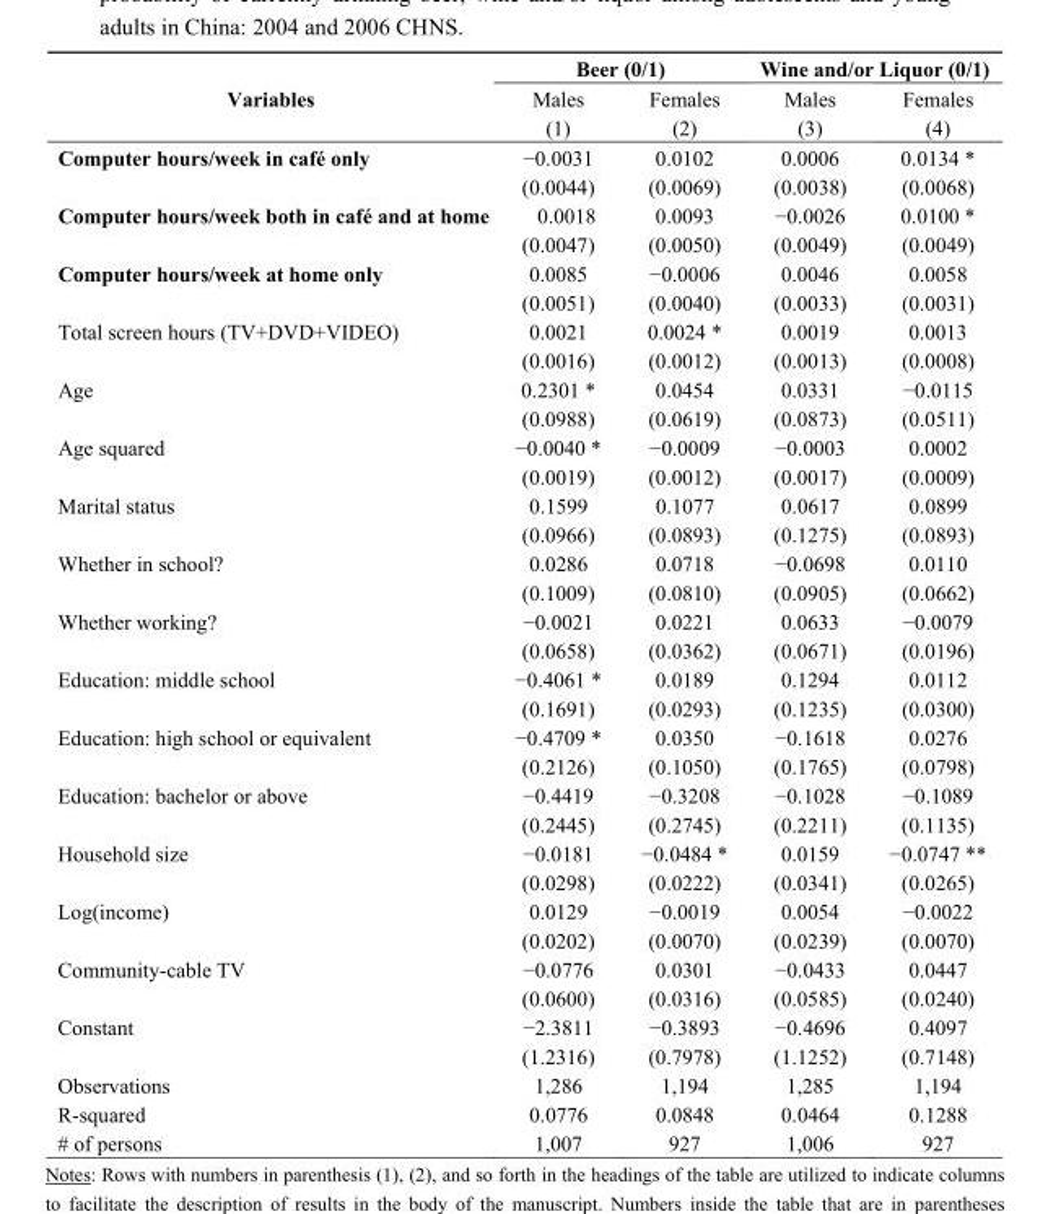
<table><thead><tr><td rowspan="3">Variables</td><td colspan="2">Beer (0/1)</td><td colspan="2">Wine and/or Liquor (0/1)</td></tr><tr><td rowspan="2">Males (1)</td><td rowspan="2">Females (2)</td><td rowspan="2">Males (3)</td><td rowspan="2">Females (4)</td></tr><tr></tr></thead><tbody><tr><td rowspan="2">Computer hours/week in café only</td><td>−0.0031</td><td>0.0102</td><td>0.0006</td><td>0.0134 *</td></tr><tr><td>(0.0044)</td><td>(0.0069)</td><td>(0.0038)</td><td>(0.0068)</td></tr><tr><td rowspan="2">Computer hours/week both in café and at home</td><td>0.0018</td><td>0.0093</td><td>−0.0026</td><td>0.0100 *</td></tr><tr><td>(0.0047)</td><td>(0.0050)</td><td>(0.0049)</td><td>(0.0049)</td></tr><tr><td rowspan="2">Computer hours/week at home only</td><td>0.0085</td><td>−0.0006</td><td>0.0046</td><td>0.0058</td></tr><tr><td>(0.0051)</td><td>(0.0040)</td><td>(0.0033)</td><td>(0.0031)</td></tr><tr><td rowspan="2">Total screen hours (TV+DVD+VIDEO)</td><td>0.0021</td><td>0.0024 *</td><td>0.0019</td><td>0.0013</td></tr><tr><td>(0.0016)</td><td>(0.0012)</td><td>(0.0013)</td><td>(0.0008)</td></tr><tr><td rowspan="2">Age</td><td>0.2301 *</td><td>0.0454</td><td>0.0331</td><td>−0.0115</td></tr><tr><td>(0.0988)</td><td>(0.0619)</td><td>(0.0873)</td><td>(0.0511)</td></tr><tr><td rowspan="2">Age squared</td><td>−0.0040 *</td><td>−0.0009</td><td>−0.0003</td><td>0.0002</td></tr><tr><td>(0.0019)</td><td>(0.0012)</td><td>(0.0017)</td><td>(0.0009)</td></tr><tr><td rowspan="2">Marital status</td><td>0.1599</td><td>0.1077</td><td>0.0617</td><td>0.0899</td></tr><tr><td>(0.0966)</td><td>(0.0893)</td><td>(0.1275)</td><td>(0.0893)</td></tr><tr><td rowspan="2">Whether in school?</td><td>0.0286</td><td>0.0718</td><td>−0.0698</td><td>0.0110</td></tr><tr><td>(0.1009)</td><td>(0.0810)</td><td>(0.0905)</td><td>(0.0662)</td></tr><tr><td rowspan="2">Whether working?</td><td>−0.0021</td><td>0.0221</td><td>0.0633</td><td>−0.0079</td></tr><tr><td>(0.0658)</td><td>(0.0362)</td><td>(0.0671)</td><td>(0.0196)</td></tr><tr><td rowspan="2">Education: middle school</td><td>−0.4061 *</td><td>0.0189</td><td>0.1294</td><td>0.0112</td></tr><tr><td>(0.1691)</td><td>(0.0293)</td><td>(0.1235)</td><td>(0.0300)</td></tr><tr><td rowspan="2">Education: high school or equivalent</td><td>−0.4709 *</td><td>0.0350</td><td>−0.1618</td><td>0.0276</td></tr><tr><td>(0.2126)</td><td>(0.1050)</td><td>(0.1765)</td><td>(0.0798)</td></tr><tr><td rowspan="2">Education: bachelor or above</td><td>−0.4419</td><td>−0.3208</td><td>−0.1028</td><td>−0.1089</td></tr><tr><td>(0.2445)</td><td>(0.2745)</td><td>(0.2211)</td><td>(0.1135)</td></tr><tr><td rowspan="2">Household size</td><td>−0.0181</td><td>−0.0484 *</td><td>0.0159</td><td>−0.0747 **</td></tr><tr><td>(0.0298)</td><td>(0.0222)</td><td>(0.0341)</td><td>(0.0265)</td></tr><tr><td rowspan="2">Log(income)</td><td>0.0129</td><td>−0.0019</td><td>0.0054</td><td>−0.0022</td></tr><tr><td>(0.0202)</td><td>(0.0070)</td><td>(0.0239)</td><td>(0.0070)</td></tr><tr><td rowspan="2">Community-cable TV</td><td>−0.0776</td><td>0.0301</td><td>−0.0433</td><td>0.0447</td></tr><tr><td>(0.0600)</td><td>(0.0316)</td><td>(0.0585)</td><td>(0.0240)</td></tr><tr><td rowspan="2">Constant</td><td>−2.3811</td><td>−0.3893</td><td>−0.4696</td><td>0.4097</td></tr><tr><td>(1.2316)</td><td>(0.7978)</td><td>(1.1252)</td><td>(0.7148)</td></tr><tr><td>Observations</td><td>1,286</td><td>1,194</td><td>1,285</td><td>1,194</td></tr><tr><td>R-squared</td><td>0.0776</td><td>0.0848</td><td>0.0464</td><td>0.1288</td></tr><tr><td># of persons</td><td>1,007</td><td>927</td><td>1,006</td><td>927</td></tr></tbody></table>